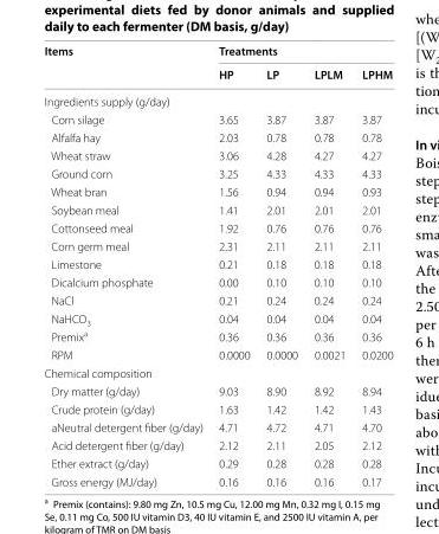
<table><thead><tr><td rowspan="2">Items</td><td colspan="4">Treatments</td></tr><tr><td>HP</td><td>LP</td><td>LPLM</td><td>LPHM</td></tr></thead><tbody><tr><td colspan="5">Ingredients supply (g/day)</td></tr><tr><td>Corn silage</td><td>3.65</td><td>3.87</td><td>3.87</td><td>3.87</td></tr><tr><td>Alfalfa hay</td><td>2.03</td><td>0.78</td><td>0.78</td><td>0.78</td></tr><tr><td>Wheat straw</td><td>3.06</td><td>4.28</td><td>4.27</td><td>4.27</td></tr><tr><td>Ground corn</td><td>3.25</td><td>4.33</td><td>4.33</td><td>4.33</td></tr><tr><td>Wheat bran</td><td>1.56</td><td>0.94</td><td>0.94</td><td>0.93</td></tr><tr><td>Soybean meal</td><td>1.41</td><td>2.01</td><td>2.01</td><td>2.01</td></tr><tr><td>Cottonseed meal</td><td>1.92</td><td>0.76</td><td>0.76</td><td>0.76</td></tr><tr><td>Corn germ meal</td><td>2.31</td><td>2.11</td><td>2.11</td><td>2.11</td></tr><tr><td>Limestone</td><td>0.21</td><td>0.18</td><td>0.18</td><td>0.18</td></tr><tr><td>Dicalcium phosphate</td><td>0.00</td><td>0.10</td><td>0.10</td><td>0.10</td></tr><tr><td>NaCl</td><td>0.21</td><td>0.24</td><td>0.24</td><td>0.24</td></tr><tr><td>NaHCO<sub>3</sub></td><td>0.04</td><td>0.04</td><td>0.04</td><td>0.04</td></tr><tr><td>Premix<sup>a</sup></td><td>0.36</td><td>0.36</td><td>0.36</td><td>0.36</td></tr><tr><td>RPM</td><td>0.0000</td><td>0.0000</td><td>0.0021</td><td>0.0200</td></tr><tr><td colspan="5">Chemical composition</td></tr><tr><td>Dry matter (g/day)</td><td>9.03</td><td>8.90</td><td>8.92</td><td>8.94</td></tr><tr><td>Crude protein (g/day)</td><td>1.63</td><td>1.42</td><td>1.42</td><td>1.43</td></tr><tr><td>aNeutral detergent fiber (g/day)</td><td>4.71</td><td>4.72</td><td>4.71</td><td>4.70</td></tr><tr><td>Acid detergent fiber (g/day)</td><td>2.12</td><td>2.11</td><td>2.05</td><td>2.12</td></tr><tr><td>Ether extract (g/day)</td><td>0.29</td><td>0.28</td><td>0.28</td><td>0.28</td></tr><tr><td>Gross energy (MJ/day)</td><td>0.16</td><td>0.16</td><td>0.16</td><td>0.17</td></tr></tbody></table>